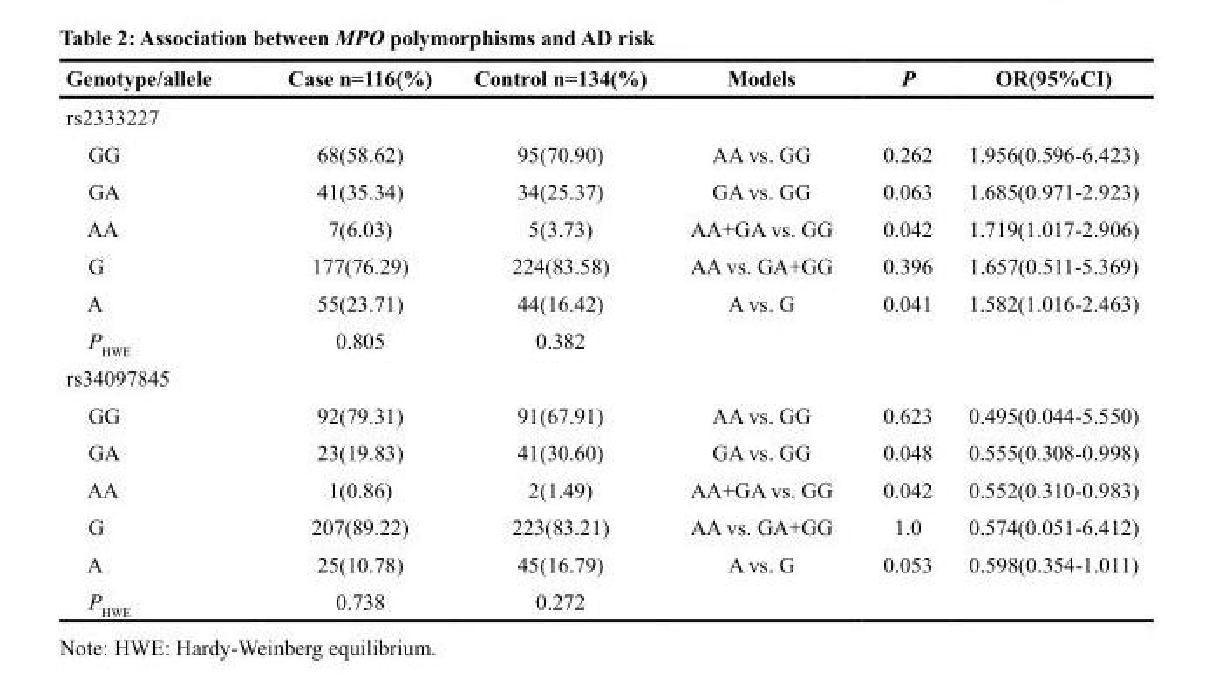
<table><thead><tr><td>Genotype/allele</td><td>Case n=116(%)</td><td>Control n=134(%)</td><td>Models</td><td>P</td><td>OR(95%CI)</td></tr></thead><tbody><tr><td colspan="6">rs2333227</td></tr><tr><td>GG</td><td>68(58.62)</td><td>95(70.90)</td><td>AA vs. GG</td><td>0.262</td><td>1.956(0.596-6.423)</td></tr><tr><td>GA</td><td>41(35.34)</td><td>34(25.37)</td><td>GA vs. GG</td><td>0.063</td><td>1.685(0.971-2.923)</td></tr><tr><td>AA</td><td>7(6.03)</td><td>5(3.73)</td><td>AA+GA vs. GG</td><td>0.042</td><td>1.719(1.017-2.906)</td></tr><tr><td>G</td><td>177(76.29)</td><td>224(83.58)</td><td>AA vs. GA+GG</td><td>0.396</td><td>1.657(0.511-5.369)</td></tr><tr><td>A</td><td>55(23.71)</td><td>44(16.42)</td><td>A vs. G</td><td>0.041</td><td>1.582(1.016-2.463)</td></tr><tr><td>P<sub>HWE</sub></td><td>0.805</td><td>0.382</td><td></td><td></td><td></td></tr><tr><td colspan="6">rs34097845</td></tr><tr><td>GG</td><td>92(79.31)</td><td>91(67.91)</td><td>AA vs. GG</td><td>0.623</td><td>0.495(0.044-5.550)</td></tr><tr><td>GA</td><td>23(19.83)</td><td>41(30.60)</td><td>GA vs. GG</td><td>0.048</td><td>0.555(0.308-0.998)</td></tr><tr><td>AA</td><td>1(0.86)</td><td>2(1.49)</td><td>AA+GA vs. GG</td><td>0.042</td><td>0.552(0.310-0.983)</td></tr><tr><td>G</td><td>207(89.22)</td><td>223(83.21)</td><td>AA vs. GA+GG</td><td>1.0</td><td>0.574(0.051-6.412)</td></tr><tr><td>A</td><td>25(10.78)</td><td>45(16.79)</td><td>A vs. G</td><td>0.053</td><td>0.598(0.354-1.011)</td></tr><tr><td>P<sub>HWE</sub></td><td>0.738</td><td>0.272</td><td></td><td></td><td></td></tr></tbody></table>